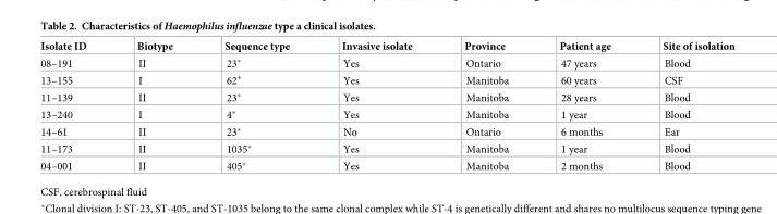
<table><thead><tr><td>Isolate ID</td><td>Biotype</td><td>Sequence type</td><td>Invasive isolate</td><td>Province</td><td>Patient age</td><td>Site of isolation</td></tr></thead><tbody><tr><td>08–191</td><td>II</td><td>23*</td><td>Yes</td><td>Ontario</td><td>47 years</td><td>Blood</td></tr><tr><td>13–155</td><td>I</td><td>62<sup>+</sup></td><td>Yes</td><td>Manitoba</td><td>60 years</td><td>CSF</td></tr><tr><td>11–139</td><td>II</td><td>23*</td><td>Yes</td><td>Manitoba</td><td>28 years</td><td>Blood</td></tr><tr><td>13–240</td><td>I</td><td>4*</td><td>Yes</td><td>Manitoba</td><td>1 year</td><td>Blood</td></tr><tr><td>14–61</td><td>II</td><td>23*</td><td>No</td><td>Ontario</td><td>6 months</td><td>Ear</td></tr><tr><td>11–173</td><td>II</td><td>1035*</td><td>Yes</td><td>Manitoba</td><td>1 year</td><td>Blood</td></tr><tr><td>04–001</td><td>II</td><td>405*</td><td>Yes</td><td>Manitoba</td><td>2 months</td><td>Blood</td></tr></tbody></table>